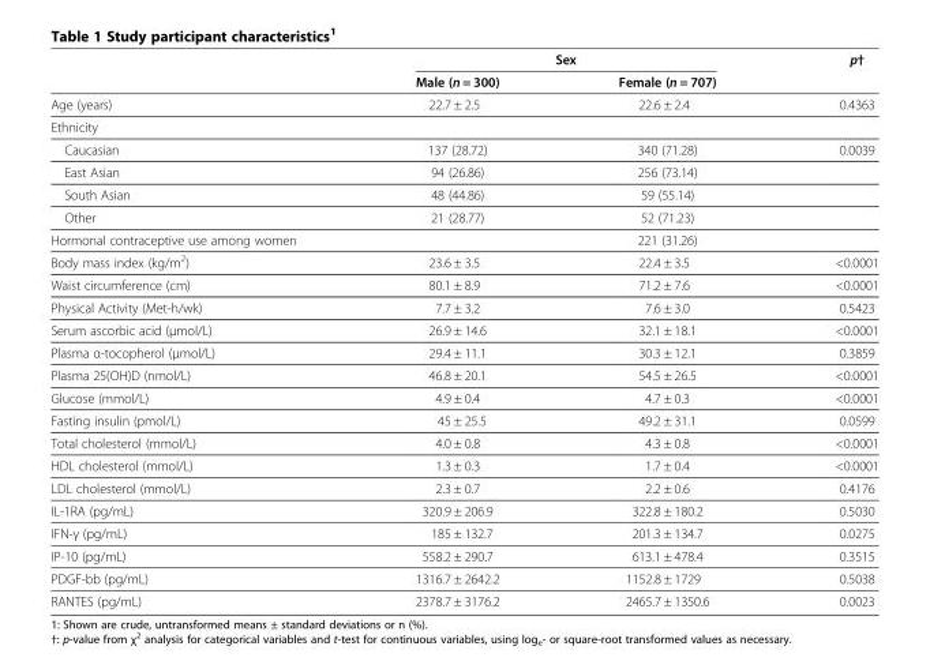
<table><thead><tr><td rowspan="2"></td><td colspan="2">Sex</td><td rowspan="2">p†</td></tr><tr><td>Male (n = 300)</td><td>Female (n = 707)</td></tr></thead><tbody><tr><td>Age (years)</td><td>22.7 ± 2.5</td><td>22.6 ± 2.4</td><td>0.4363</td></tr><tr><td colspan="4">Ethnicity</td></tr><tr><td>Caucasian</td><td>137 (28.72)</td><td>340 (71.28)</td><td>0.0039</td></tr><tr><td>East Asian</td><td>94 (26.86)</td><td>256 (73.14)</td><td></td></tr><tr><td>South Asian</td><td>48 (44.86)</td><td>59 (55.14)</td><td></td></tr><tr><td>Other</td><td>21 (28.77)</td><td>52 (71.23)</td><td></td></tr><tr><td>Hormonal contraceptive use among women</td><td></td><td>221 (31.26)</td><td></td></tr><tr><td>Body mass index (kg/m<sup>2</sup>)</td><td>23.6 ± 3.5</td><td>22.4 ± 3.5</td><td>&lt;0.0001</td></tr><tr><td>Waist circumference (cm)</td><td>80.1 ± 8.9</td><td>71.2 ± 7.6</td><td>&lt;0.0001</td></tr><tr><td>Physical Activity (Met-h/wk)</td><td>7.7 ± 3.2</td><td>7.6 ± 3.0</td><td>0.5423</td></tr><tr><td>Serum ascorbic acid (μmol/L)</td><td>26.9 ± 14.6</td><td>32.1 ± 18.1</td><td>&lt;0.0001</td></tr><tr><td>Plasma α-tocopherol (μmol/L)</td><td>29.4 ± 11.1</td><td>30.3 ± 12.1</td><td>0.3859</td></tr><tr><td>Plasma 25(OH)D (nmol/L)</td><td>46.8 ± 20.1</td><td>54.5 ± 26.5</td><td>&lt;0.0001</td></tr><tr><td>Glucose (mmol/L)</td><td>4.9 ± 0.4</td><td>4.7 ± 0.3</td><td>&lt;0.0001</td></tr><tr><td>Fasting insulin (pmol/L)</td><td>45 ± 25.5</td><td>49.2 ± 31.1</td><td>0.0599</td></tr><tr><td>Total cholesterol (mmol/L)</td><td>4.0 ± 0.8</td><td>4.3 ± 0.8</td><td>&lt;0.0001</td></tr><tr><td>HDL cholesterol (mmol/L)</td><td>1.3 ± 0.3</td><td>1.7 ± 0.4</td><td>&lt;0.0001</td></tr><tr><td>LDL cholesterol (mmol/L)</td><td>2.3 ± 0.7</td><td>2.2 ± 0.6</td><td>0.4176</td></tr><tr><td>IL-1RA (pg/mL)</td><td>320.9 ± 206.9</td><td>322.8 ± 180.2</td><td>0.5030</td></tr><tr><td>IFN-γ (pg/mL)</td><td>185 ± 132.7</td><td>201.3 ± 134.7</td><td>0.0275</td></tr><tr><td>IP-10 (pg/mL)</td><td>558.2 ± 290.7</td><td>613.1 ± 478.4</td><td>0.3515</td></tr><tr><td>PDGF-bb (pg/mL)</td><td>1316.7 ± 2642.2</td><td>1152.8 ± 1729</td><td>0.5038</td></tr><tr><td>RANTES (pg/mL)</td><td>2378.7 ± 3176.2</td><td>2465.7 ± 1350.6</td><td>0.0023</td></tr></tbody></table>